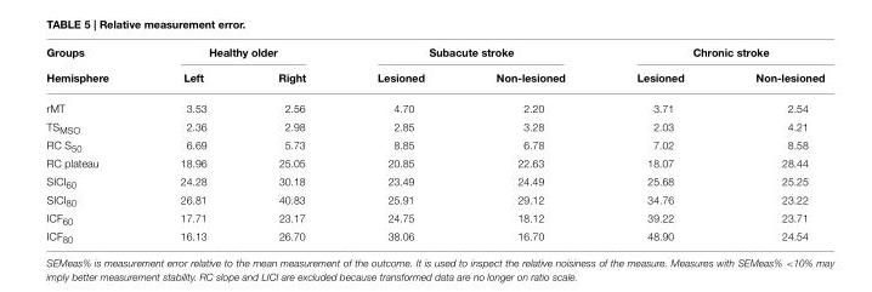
<table><thead><tr><td rowspan="2">Groups Hemisphere</td><td colspan="2">Healthy older</td><td colspan="2">Subacute stroke</td><td colspan="2">Chronic stroke</td></tr><tr><td>Left</td><td>Right</td><td>Lesioned</td><td>Non-lesioned</td><td>Lesioned</td><td>Non-lesioned</td></tr></thead><tbody><tr><td>rMT</td><td>3.53</td><td>2.56</td><td>4.70</td><td>2.20</td><td>3.71</td><td>2.54</td></tr><tr><td>TS<sub>MSO</sub></td><td>2.36</td><td>2.98</td><td>2.85</td><td>3.28</td><td>2.03</td><td>4.21</td></tr><tr><td>RC S<sub>50</sub></td><td>6.69</td><td>5.73</td><td>8.85</td><td>6.78</td><td>7.02</td><td>8.58</td></tr><tr><td>RC plateau</td><td>18.96</td><td>25.05</td><td>20.85</td><td>22.63</td><td>18.07</td><td>28.44</td></tr><tr><td>SICI<sub>60</sub></td><td>24.28</td><td>30.18</td><td>23.49</td><td>24.49</td><td>25.68</td><td>25.25</td></tr><tr><td>SICI<sub>80</sub></td><td>26.81</td><td>40.83</td><td>25.91</td><td>29.12</td><td>34.76</td><td>23.22</td></tr><tr><td>ICF<sub>60</sub></td><td>17.71</td><td>23.17</td><td>24.75</td><td>18.12</td><td>39.22</td><td>23.71</td></tr><tr><td>ICF<sub>80</sub></td><td>16.13</td><td>26.70</td><td>38.06</td><td>16.70</td><td>48.90</td><td>24.54</td></tr></tbody></table>